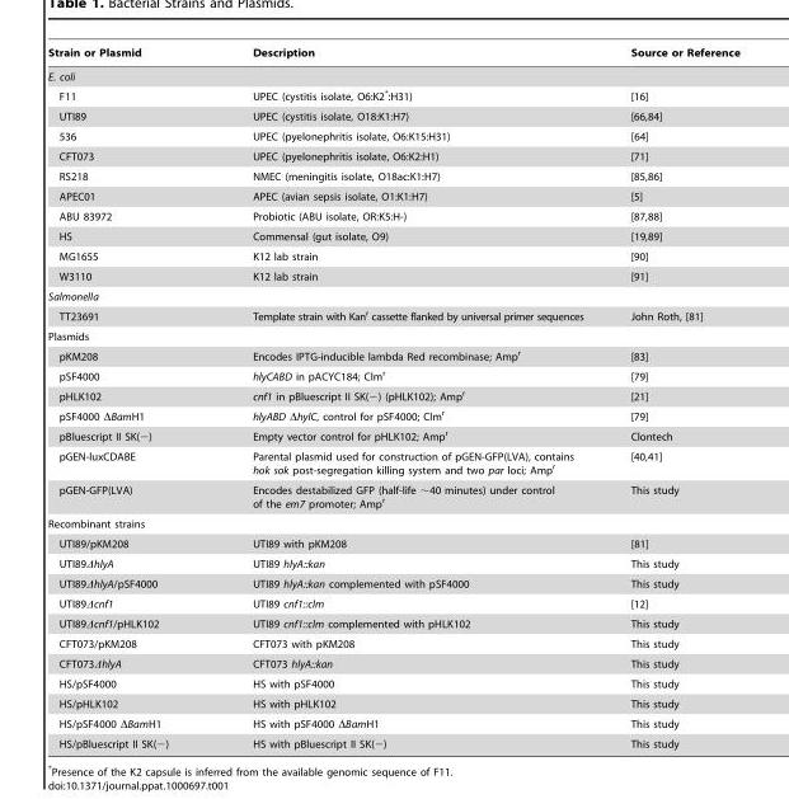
<table><thead><tr><td>Strain or Plasmid</td><td>Description</td><td>Source or Reference</td></tr></thead><tbody><tr><td colspan="3">E. coli</td></tr><tr><td>F11</td><td>UPEC (cystitis isolate, O6:K2*:H31)</td><td>[16]</td></tr><tr><td>UTI89</td><td>UPEC (cystitis isolate, O18:K1:H7)</td><td>[66,84]</td></tr><tr><td>536</td><td>UPEC (pyelonephritis isolate, O6:K15:H31)</td><td>[64]</td></tr><tr><td>CFT073</td><td>UPEC (pyelonephritis isolate, O6:K2:H1)</td><td>[71]</td></tr><tr><td>RS218</td><td>NMEC (meningitis isolate, O18ac:K1:H7)</td><td>[85,86]</td></tr><tr><td>APEC01</td><td>APEC (avian sepsis isolate, O1:K1:H7)</td><td>[5]</td></tr><tr><td>ABU 83972</td><td>Probiotic (ABU isolate, OR:K5:H-)</td><td>[87,88]</td></tr><tr><td>HS</td><td>Commensal (gut isolate, O9)</td><td>[19,89]</td></tr><tr><td>MG1655</td><td>K12 lab strain</td><td>[90]</td></tr><tr><td>W3110</td><td>K12 lab strain</td><td>[91]</td></tr><tr><td colspan="3">Salmonella</td></tr><tr><td>TT23691</td><td>Template strain with Kan<sup>r</sup> cassette flanked by universal primer sequences</td><td>John Roth, [81]</td></tr><tr><td colspan="3">Plasmids</td></tr><tr><td>pKM208</td><td>Encodes IPTG-inducible lambda Red recombinase; Amp<sup>r</sup></td><td>[83]</td></tr><tr><td>pSF4000</td><td>hlyCABD in pACYC184; Clm<sup>r</sup></td><td>[79]</td></tr><tr><td>pHLK102</td><td>cnf1 in pBluescript II SK(−) (pHLK102); Amp<sup>r</sup></td><td>[21]</td></tr><tr><td>pSF4000 ΔBamH1</td><td>hlyABD ΔhylC, control for pSF4000; Clm<sup>r</sup></td><td>[79]</td></tr><tr><td>pBluescript II SK(−)</td><td>Empty vector control for pHLK102; Amp<sup>r</sup></td><td>Clontech</td></tr><tr><td>pGEN-luxCDABE</td><td>Parental plasmid used for construction of pGEN-GFP(LVA), contains hok sok post-segregation killing system and two par loci; Amp<sup>r</sup></td><td>[40,41]</td></tr><tr><td>pGEN-GFP(LVA)</td><td>Encodes destabilized GFP (half-life ∼40 minutes) under control of the em7 promoter; Amp<sup>r</sup></td><td>This study</td></tr><tr><td colspan="3">Recombinant strains</td></tr><tr><td>UTI89/pKM208</td><td>UTI89 with pKM208</td><td>[81]</td></tr><tr><td>UTI89ΔhlyA</td><td>UTI89 hlyA::kan</td><td>This study</td></tr><tr><td>UTI89ΔhlyA/pSF4000</td><td>UTI89 hlyA::kan complemented with pSF4000</td><td>This study</td></tr><tr><td>UTI89Δcnf1</td><td>UTI89 cnf1::clm</td><td>[12]</td></tr><tr><td>UTI89Δcnf1/pHLK102</td><td>UTI89 cnf1::clm complemented with pHLK102</td><td>This study</td></tr><tr><td>CFT073/pKM208</td><td>CFT073 with pKM208</td><td>This study</td></tr><tr><td>CFT073ΔhlyA</td><td>CFT073 hlyA::kan</td><td>This study</td></tr><tr><td>HS/pSF4000</td><td>HS with pSF4000</td><td>This study</td></tr><tr><td>HS/pHLK102</td><td>HS with pHLK102</td><td>This study</td></tr><tr><td>HS/pSF4000 ΔBamH1</td><td>HS with pSF4000 ΔBamH1</td><td>This study</td></tr><tr><td>HS/pBluescript II SK(−)</td><td>HS with pBluescript II SK(−)</td><td>This study</td></tr></tbody></table>